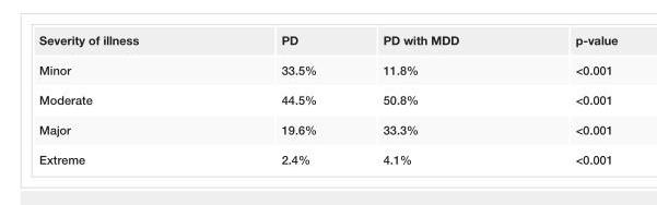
<table><tbody><tr><td>Severity of illness</td><td>PD</td><td>PD with MDD</td><td>p-value</td></tr><tr><td>Minor</td><td>33.5%</td><td>11.8%</td><td>&lt;0.001</td></tr><tr><td>Moderate</td><td>44.5%</td><td>50.8%</td><td>&lt;0.001</td></tr><tr><td>Major</td><td>19.6%</td><td>33.3%</td><td>&lt;0.001</td></tr><tr><td>Extreme</td><td>2.4%</td><td>4.1%</td><td>&lt;0.001</td></tr></tbody></table>